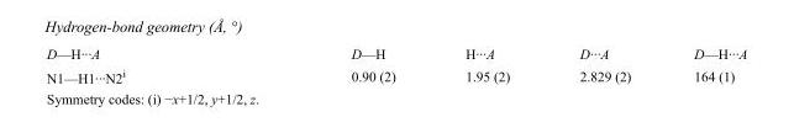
<table><tbody><tr><td>D—H···A</td><td>D—H</td><td>H···A</td><td>D···A</td><td>D—H···A</td></tr><tr><td>N1—H1···N2<sup>i</sup></td><td>0.90 (2)</td><td>1.95 (2)</td><td>2.829 (2)</td><td>164 (1)</td></tr></tbody></table>